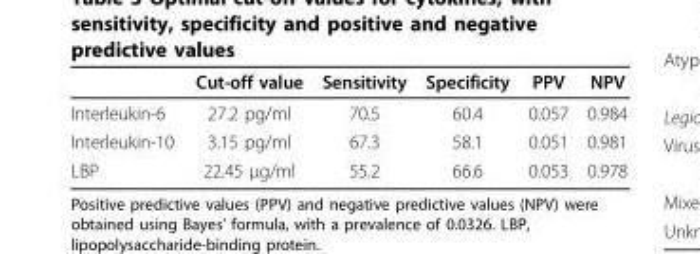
<table><thead><tr><td></td><td>Cut-off value</td><td>Sensitivity</td><td>Specificity</td><td>PPV</td><td>NPV</td></tr></thead><tbody><tr><td>Interleukin-6</td><td>27.2 pg/ml</td><td>70.5</td><td>60.4</td><td>0.057</td><td>0.984</td></tr><tr><td>Interleukin-10</td><td>3.15 pg/ml</td><td>67.3</td><td>58.1</td><td>0.051</td><td>0.981</td></tr><tr><td>LBP</td><td>22.45 μg/ml</td><td>55.2</td><td>66.6</td><td>0.053</td><td>0.978</td></tr></tbody></table>